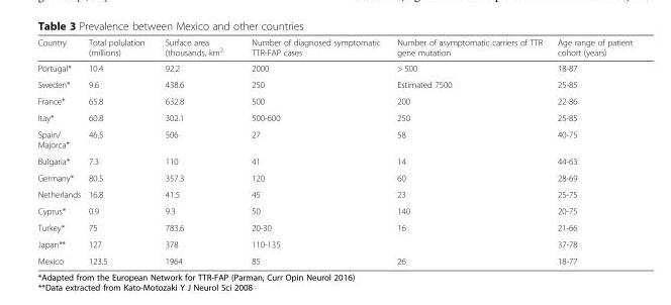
<table><thead><tr><td>Country</td><td>Total polulation (millions)</td><td>Surface area (thousands, km<sup>2</sup></td><td>Number of diagnosed symptomatic TTR-FAP cases</td><td>Number of asymptomatic carriers of TTR gene mutation</td><td>Age range of patient cohort (years)</td></tr></thead><tbody><tr><td>Portugal*</td><td>10.4</td><td>92.2</td><td>2000</td><td>&gt; 500</td><td>18-87</td></tr><tr><td>Sweden*</td><td>9.6</td><td>438.6</td><td>250</td><td>Estimated 7500</td><td>25-85</td></tr><tr><td>France*</td><td>65.8</td><td>632.8</td><td>500</td><td>200</td><td>22-86</td></tr><tr><td>Itay*</td><td>60.8</td><td>302.1</td><td>500-600</td><td>250</td><td>25-85</td></tr><tr><td>Spain/ Majorca*</td><td>46.5</td><td>506</td><td>27</td><td>58</td><td>40-75</td></tr><tr><td>Bulgaria*</td><td>7.3</td><td>110</td><td>41</td><td>14</td><td>44-63</td></tr><tr><td>Germany*</td><td>80.5</td><td>357.3</td><td>120</td><td>60</td><td>28-69</td></tr><tr><td>Netherlands</td><td>16.8</td><td>41.5</td><td>45</td><td>23</td><td>25-75</td></tr><tr><td>Cyprus*</td><td>0.9</td><td>9.3</td><td>50</td><td>140</td><td>20-75</td></tr><tr><td>Turkey*</td><td>75</td><td>783.6</td><td>20-30</td><td>16</td><td>21-66</td></tr><tr><td>Japan**</td><td>127</td><td>378</td><td colspan="2">110-135</td><td>37-78</td></tr><tr><td>Mexico</td><td>123.5</td><td>1964</td><td>85</td><td>26</td><td>18-77</td></tr></tbody></table>